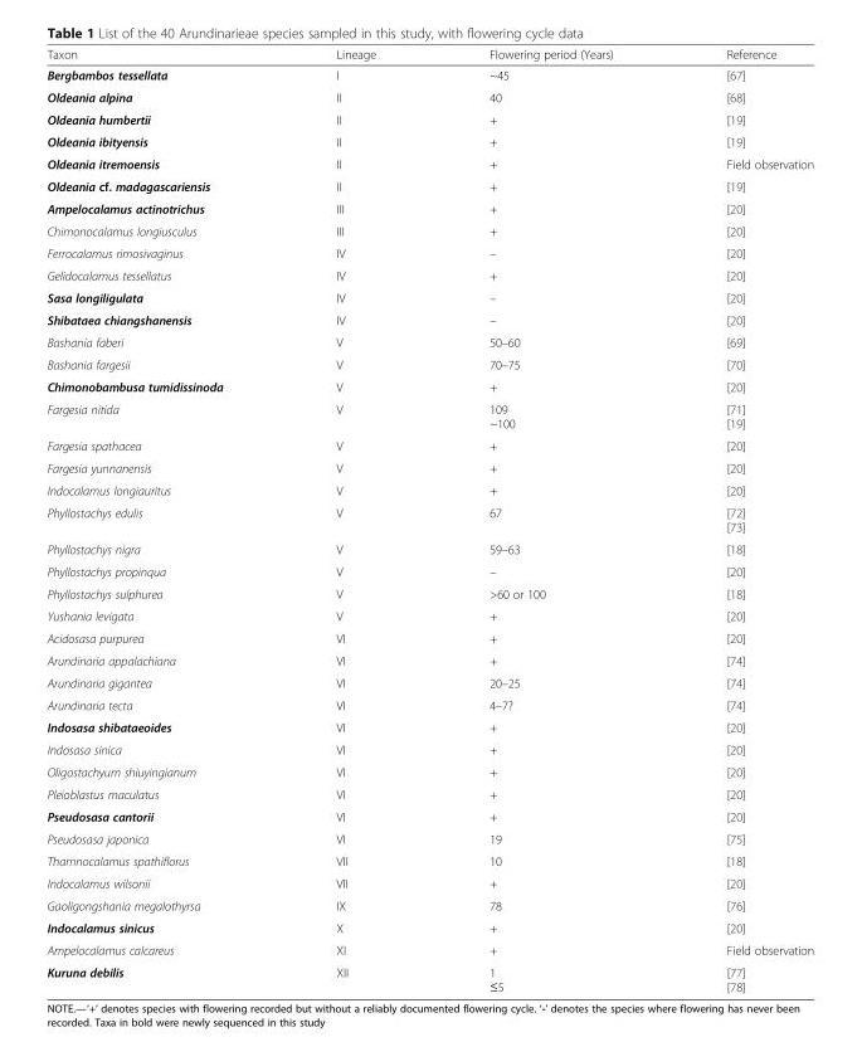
<table><thead><tr><td>Taxon</td><td>Lineage</td><td>Flowering period (Years)</td><td>Reference</td></tr></thead><tbody><tr><td>Bergbambos tessellata</td><td>I</td><td>~45</td><td>[67]</td></tr><tr><td>Oldeania alpina</td><td>II</td><td>40</td><td>[68]</td></tr><tr><td>Oldeania humbertii</td><td>II</td><td>+</td><td>[19]</td></tr><tr><td>Oldeania ibityensis</td><td>II</td><td>+</td><td>[19]</td></tr><tr><td>Oldeania itremoensis</td><td>II</td><td>+</td><td>Field observation</td></tr><tr><td>Oldeania cf. madagascariensis</td><td>II</td><td>+</td><td>[19]</td></tr><tr><td>Ampelocalamus actinotrichus</td><td>III</td><td>+</td><td>[20]</td></tr><tr><td>Chimonocalamus longiusculus</td><td>III</td><td>+</td><td>[20]</td></tr><tr><td>Ferrocalamus rimosivaginus</td><td>IV</td><td>–</td><td>[20]</td></tr><tr><td>Gelidocalamus tessellatus</td><td>IV</td><td>+</td><td>[20]</td></tr><tr><td>Sasa longiligulata</td><td>IV</td><td>–</td><td>[20]</td></tr><tr><td>Shibataea chiangshanensis</td><td>IV</td><td>–</td><td>[20]</td></tr><tr><td>Bashania faberi</td><td>V</td><td>50–60</td><td>[69]</td></tr><tr><td>Bashania fargesii</td><td>V</td><td>70–75</td><td>[70]</td></tr><tr><td>Chimonobambusa tumidissinoda</td><td>V</td><td>+</td><td>[20]</td></tr><tr><td>Fargesia nitida</td><td>V</td><td>109 ~100</td><td>[71] [19]</td></tr><tr><td>Fargesia spathacea</td><td>V</td><td>+</td><td>[20]</td></tr><tr><td>Fargesia yunnanensis</td><td>V</td><td>+</td><td>[20]</td></tr><tr><td>Indocalamus longiauritus</td><td>V</td><td>+</td><td>[20]</td></tr><tr><td>Phyllostachys edulis</td><td>V</td><td>67</td><td>[72] [73]</td></tr><tr><td>Phyllostachys nigra</td><td>V</td><td>59–63</td><td>[18]</td></tr><tr><td>Phyllostachys propinqua</td><td>V</td><td>–</td><td>[20]</td></tr><tr><td>Phyllostachys sulphurea</td><td>V</td><td>&gt;60 or 100</td><td>[18]</td></tr><tr><td>Yushania levigata</td><td>V</td><td>+</td><td>[20]</td></tr><tr><td>Acidosasa purpurea</td><td>VI</td><td>+</td><td>[20]</td></tr><tr><td>Arundinaria appalachiana</td><td>VI</td><td>+</td><td>[74]</td></tr><tr><td>Arundinaria gigantea</td><td>VI</td><td>20–25</td><td>[74]</td></tr><tr><td>Arundinaria tecta</td><td>VI</td><td>4–7?</td><td>[74]</td></tr><tr><td>Indosasa shibataeoides</td><td>VI</td><td>+</td><td>[20]</td></tr><tr><td>Indosasa sinica</td><td>VI</td><td>+</td><td>[20]</td></tr><tr><td>Oligostachyum shiuyingianum</td><td>VI</td><td>+</td><td>[20]</td></tr><tr><td>Pleioblastus maculatus</td><td>VI</td><td>+</td><td>[20]</td></tr><tr><td>Pseudosasa cantorii</td><td>VI</td><td>+</td><td>[20]</td></tr><tr><td>Pseudosasa japonica</td><td>VI</td><td>19</td><td>[75]</td></tr><tr><td>Thamnocalamus spathiflorus</td><td>VII</td><td>10</td><td>[18]</td></tr><tr><td>Indocalamus wilsonii</td><td>VII</td><td>+</td><td>[20]</td></tr><tr><td>Gaoligongshania megalothyrsa</td><td>IX</td><td>78</td><td>[76]</td></tr><tr><td>Indocalamus sinicus</td><td>X</td><td>+</td><td>[20]</td></tr><tr><td>Ampelocalamus calcareus</td><td>XI</td><td>+</td><td>Field observation</td></tr><tr><td>Kuruna debilis</td><td>XII</td><td>1 ≤5</td><td>[77] [78]</td></tr></tbody></table>